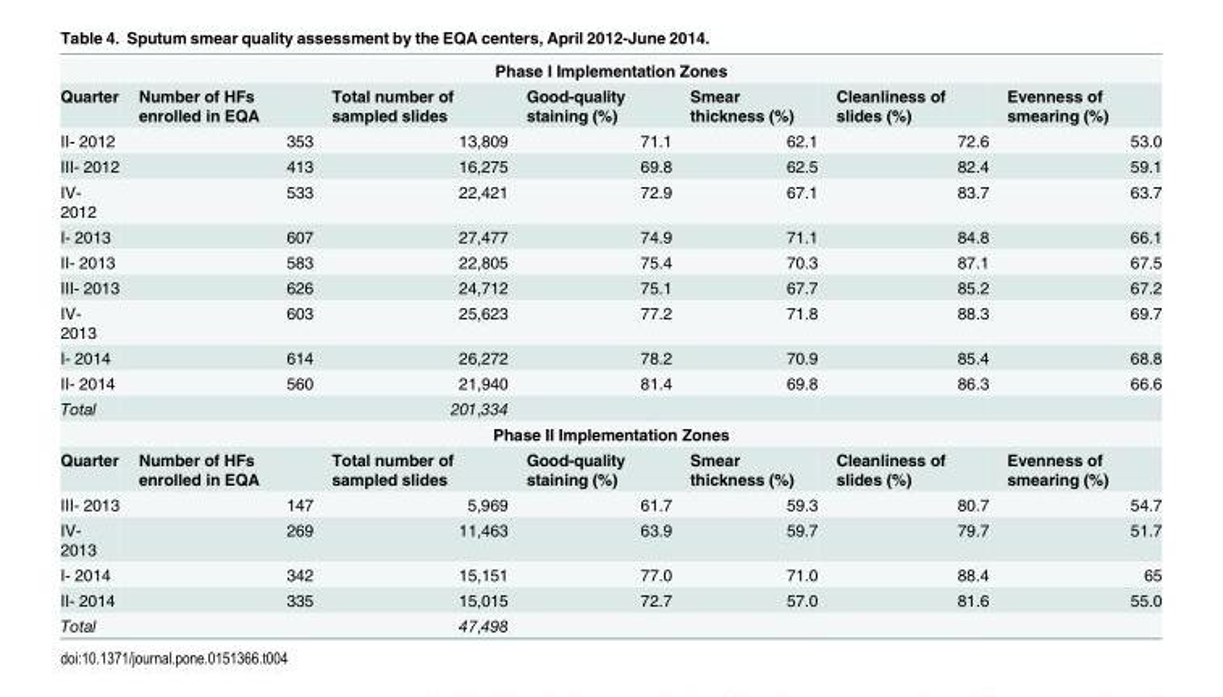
<table><tbody><tr><td colspan="7">Phase I Implementation Zones</td></tr><tr><td>Quarter</td><td>Number of HFs enrolled in EQA</td><td>Total number of sampled slides</td><td>Good-quality staining (%)</td><td>Smear thickness (%)</td><td>Cleanliness of slides (%)</td><td>Evenness of smearing (%)</td></tr><tr><td>II- 2012</td><td>353</td><td>13,809</td><td>71.1</td><td>62.1</td><td>72.6</td><td>53.0</td></tr><tr><td>III- 2012</td><td>413</td><td>16,275</td><td>69.8</td><td>62.5</td><td>82.4</td><td>59.1</td></tr><tr><td>IV- 2012</td><td>533</td><td>22,421</td><td>72.9</td><td>67.1</td><td>83.7</td><td>63.7</td></tr><tr><td>I- 2013</td><td>607</td><td>27,477</td><td>74.9</td><td>71.1</td><td>84.8</td><td>66.1</td></tr><tr><td>II- 2013</td><td>583</td><td>22,805</td><td>75.4</td><td>70.3</td><td>87.1</td><td>67.5</td></tr><tr><td>III- 2013</td><td>626</td><td>24,712</td><td>75.1</td><td>67.7</td><td>85.2</td><td>67.2</td></tr><tr><td>IV- 2013</td><td>603</td><td>25,623</td><td>77.2</td><td>71.8</td><td>88.3</td><td>69.7</td></tr><tr><td>I- 2014</td><td>614</td><td>26,272</td><td>78.2</td><td>70.9</td><td>85.4</td><td>68.8</td></tr><tr><td>II- 2014</td><td>560</td><td>21,940</td><td>81.4</td><td>69.8</td><td>86.3</td><td>66.6</td></tr><tr><td>Total</td><td></td><td>201,334</td><td></td><td></td><td></td><td></td></tr><tr><td colspan="7">Phase II Implementation Zones</td></tr><tr><td>Quarter</td><td>Number of HFs enrolled in EQA</td><td>Total number of sampled slides</td><td>Good-quality staining (%)</td><td>Smear thickness (%)</td><td>Cleanliness of slides (%)</td><td>Evenness of smearing (%)</td></tr><tr><td>III- 2013</td><td>147</td><td>5,969</td><td>61.7</td><td>59.3</td><td>80.7</td><td>54.7</td></tr><tr><td>IV- 2013</td><td>269</td><td>11,463</td><td>63.9</td><td>59.7</td><td>79.7</td><td>51.7</td></tr><tr><td>I- 2014</td><td>342</td><td>15,151</td><td>77.0</td><td>71.0</td><td>88.4</td><td>65</td></tr><tr><td>II- 2014</td><td>335</td><td>15,015</td><td>72.7</td><td>57.0</td><td>81.6</td><td>55.0</td></tr><tr><td>Total</td><td></td><td>47,498</td><td></td><td></td><td></td><td></td></tr></tbody></table>